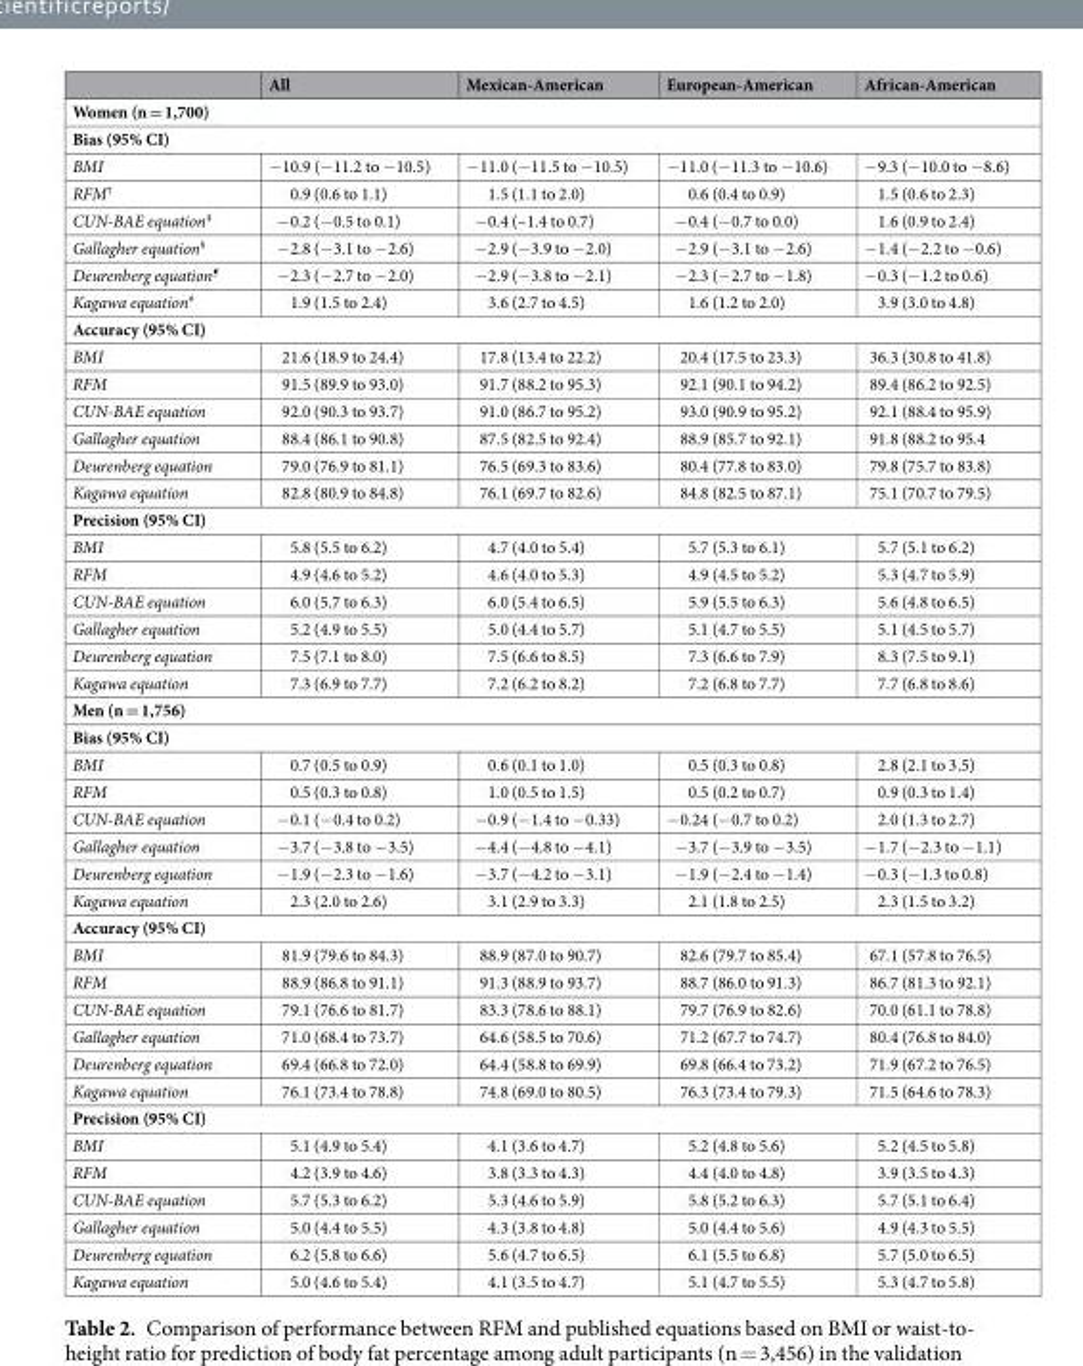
<table><thead><tr><td></td><td>All</td><td>Mexican-American</td><td>European-American</td><td>African-American</td></tr></thead><tbody><tr><td colspan="5">Women (n = 1,700)</td></tr><tr><td colspan="5">Bias (95% CI)</td></tr><tr><td>BMI</td><td>−10.9 (−11.2 to −10.5)</td><td>−11.0 (−11.5 to −10.5)</td><td>−11.0 (−11.3 to −10.6)</td><td>−9.3 (−10.0 to −8.6)</td></tr><tr><td>RFM<sup>†</sup></td><td>0.9 (0.6 to 1.1)</td><td>1.5 (1.1 to 2.0)</td><td>0.6 (0.4 to 0.9)</td><td>1.5 (0.6 to 2.3)</td></tr><tr><td>CUN-BAE equation<sup>‡</sup></td><td>−0.2 (−0.5 to 0.1)</td><td>−0.4 (–1.4 to 0.7)</td><td>−0.4 (−0.7 to 0.0)</td><td>1.6 (0.9 to 2.4)</td></tr><tr><td>Gallagher equation<sup>§</sup></td><td>−2.8 (−3.1 to −2.6)</td><td>−2.9 (−3.9 to −2.0)</td><td>−2.9 (−3.1 to −2.6)</td><td>−1.4 (−2.2 to −0.6)</td></tr><tr><td>Deurenberg equation<sup>¶</sup></td><td>−2.3 (−2.7 to −2.0)</td><td>−2.9 (−3.8 to −2.1)</td><td>−2.3 (−2.7 to −1.8)</td><td>−0.3 (−1.2 to 0.6)</td></tr><tr><td>Kagawa equation<sup>#</sup></td><td>1.9 (1.5 to 2.4)</td><td>3.6 (2.7 to 4.5)</td><td>1.6 (1.2 to 2.0)</td><td>3.9 (3.0 to 4.8)</td></tr><tr><td colspan="5">Accuracy (95% CI)</td></tr><tr><td>BMI</td><td>21.6 (18.9 to 24.4)</td><td>17.8 (13.4 to 22.2)</td><td>20.4 (17.5 to 23.3)</td><td>36.3 (30.8 to 41.8)</td></tr><tr><td>RFM</td><td>91.5 (89.9 to 93.0)</td><td>91.7 (88.2 to 95.3)</td><td>92.1 (90.1 to 94.2)</td><td>89.4 (86.2 to 92.5)</td></tr><tr><td>CUN-BAE equation</td><td>92.0 (90.3 to 93.7)</td><td>91.0 (86.7 to 95.2)</td><td>93.0 (90.9 to 95.2)</td><td>92.1 (88.4 to 95.9)</td></tr><tr><td>Gallagher equation</td><td>88.4 (86.1 to 90.8)</td><td>87.5 (82.5 to 92.4)</td><td>88.9 (85.7 to 92.1)</td><td>91.8 (88.2 to 95.4</td></tr><tr><td>Deurenberg equation</td><td>79.0 (76.9 to 81.1)</td><td>76.5 (69.3 to 83.6)</td><td>80.4 (77.8 to 83.0)</td><td>79.8 (75.7 to 83.8)</td></tr><tr><td>Kagawa equation</td><td>82.8 (80.9 to 84.8)</td><td>76.1 (69.7 to 82.6)</td><td>84.8 (82.5 to 87.1)</td><td>75.1 (70.7 to 79.5)</td></tr><tr><td colspan="5">Precision (95% CI)</td></tr><tr><td>BMI</td><td>5.8 (5.5 to 6.2)</td><td>4.7 (4.0 to 5.4)</td><td>5.7 (5.3 to 6.1)</td><td>5.7 (5.1 to 6.2)</td></tr><tr><td>RFM</td><td>4.9 (4.6 to 5.2)</td><td>4.6 (4.0 to 5.3)</td><td>4.9 (4.5 to 5.2)</td><td>5.3 (4.7 to 5.9)</td></tr><tr><td>CUN-BAE equation</td><td>6.0 (5.7 to 6.3)</td><td>6.0 (5.4 to 6.5)</td><td>5.9 (5.5 to 6.3)</td><td>5.6 (4.8 to 6.5)</td></tr><tr><td>Gallagher equation</td><td>5.2 (4.9 to 5.5)</td><td>5.0 (4.4 to 5.7)</td><td>5.1 (4.7 to 5.5)</td><td>5.1 (4.5 to 5.7)</td></tr><tr><td>Deurenberg equation</td><td>7.5 (7.1 to 8.0)</td><td>7.5 (6.6 to 8.5)</td><td>7.3 (6.6 to 7.9)</td><td>8.3 (7.5 to 9.1)</td></tr><tr><td>Kagawa equation</td><td>7.3 (6.9 to 7.7)</td><td>7.2 (6.2 to 8.2)</td><td>7.2 (6.8 to 7.7)</td><td>7.7 (6.8 to 8.6)</td></tr><tr><td colspan="5">Men (n = 1,756)</td></tr><tr><td colspan="5">Bias (95% CI)</td></tr><tr><td>BMI</td><td>0.7 (0.5 to 0.9)</td><td>0.6 (0.1 to 1.0)</td><td>0.5 (0.3 to 0.8)</td><td>2.8 (2.1 to 3.5)</td></tr><tr><td>RFM</td><td>0.5 (0.3 to 0.8)</td><td>1.0 (0.5 to 1.5)</td><td>0.5 (0.2 to 0.7)</td><td>0.9 (0.3 to 1.4)</td></tr><tr><td>CUN-BAE equation</td><td>−0.1 (−0.4 to 0.2)</td><td>−0.9 (−1.4 to −0.33)</td><td>−0.24 (−0.7 to 0.2)</td><td>2.0 (1.3 to 2.7)</td></tr><tr><td>Gallagher equation</td><td>−3.7 (−3.8 to −3.5)</td><td>−4.4 (−4.8 to −4.1)</td><td>−3.7 (−3.9 to −3.5)</td><td>−1.7 (−2.3 to −1.1)</td></tr><tr><td>Deurenberg equation</td><td>−1.9 (−2.3 to −1.6)</td><td>−3.7 (−4.2 to −3.1)</td><td>−1.9 (−2.4 to −1.4)</td><td>−0.3 (−1.3 to 0.8)</td></tr><tr><td>Kagawa equation</td><td>2.3 (2.0 to 2.6)</td><td>3.1 (2.9 to 3.3)</td><td>2.1 (1.8 to 2.5)</td><td>2.3 (1.5 to 3.2)</td></tr><tr><td colspan="5">Accuracy (95% CI)</td></tr><tr><td>BMI</td><td>81.9 (79.6 to 84.3)</td><td>88.9 (87.0 to 90.7)</td><td>82.6 (79.7 to 85.4)</td><td>67.1 (57.8 to 76.5)</td></tr><tr><td>RFM</td><td>88.9 (86.8 to 91.1)</td><td>91.3 (88.9 to 93.7)</td><td>88.7 (86.0 to 91.3)</td><td>86.7 (81.3 to 92.1)</td></tr><tr><td>CUN-BAE equation</td><td>79.1 (76.6 to 81.7)</td><td>83.3 (78.6 to 88.1)</td><td>79.7 (76.9 to 82.6)</td><td>70.0 (61.1 to 78.8)</td></tr><tr><td>Gallagher equation</td><td>71.0 (68.4 to 73.7)</td><td>64.6 (58.5 to 70.6)</td><td>71.2 (67.7 to 74.7)</td><td>80.4 (76.8 to 84.0)</td></tr><tr><td>Deurenberg equation</td><td>69.4 (66.8 to 72.0)</td><td>64.4 (58.8 to 69.9)</td><td>69.8 (66.4 to 73.2)</td><td>71.9 (67.2 to 76.5)</td></tr><tr><td>Kagawa equation</td><td>76.1 (73.4 to 78.8)</td><td>74.8 (69.0 to 80.5)</td><td>76.3 (73.4 to 79.3)</td><td>71.5 (64.6 to 78.3)</td></tr><tr><td colspan="5">Precision (95% CI)</td></tr><tr><td>BMI</td><td>5.1 (4.9 to 5.4)</td><td>4.1 (3.6 to 4.7)</td><td>5.2 (4.8 to 5.6)</td><td>5.2 (4.5 to 5.8)</td></tr><tr><td>RFM</td><td>4.2 (3.9 to 4.6)</td><td>3.8 (3.3 to 4.3)</td><td>4.4 (4.0 to 4.8)</td><td>3.9 (3.5 to 4.3)</td></tr><tr><td>CUN-BAE equation</td><td>5.7 (5.3 to 6.2)</td><td>5.3 (4.6 to 5.9)</td><td>5.8 (5.2 to 6.3)</td><td>5.7 (5.1 to 6.4)</td></tr><tr><td>Gallagher equation</td><td>5.0 (4.4 to 5.5)</td><td>4.3 (3.8 to 4.8)</td><td>5.0 (4.4 to 5.6)</td><td>4.9 (4.3 to 5.5)</td></tr><tr><td>Deurenberg equation</td><td>6.2 (5.8 to 6.6)</td><td>5.6 (4.7 to 6.5)</td><td>6.1 (5.5 to 6.8)</td><td>5.7 (5.0 to 6.5)</td></tr><tr><td>Kagawa equation</td><td>5.0 (4.6 to 5.4)</td><td>4.1 (3.5 to 4.7)</td><td>5.1 (4.7 to 5.5)</td><td>5.3 (4.7 to 5.8)</td></tr></tbody></table>